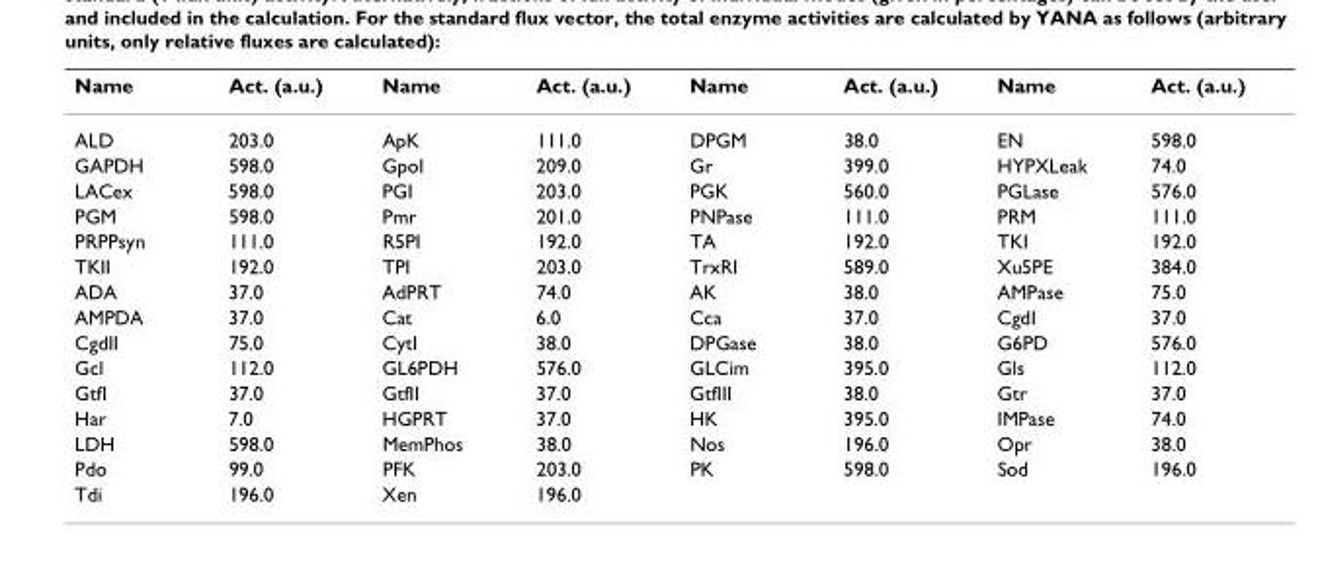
<table><thead><tr><td>Name</td><td>Act. (a.u.)</td><td>Name</td><td>Act. (a.u.)</td><td>Name</td><td>Act. (a.u.)</td><td>Name</td><td>Act. (a.u.)</td></tr></thead><tbody><tr><td>ALD</td><td>203.0</td><td>ApK</td><td>111.0</td><td>DPGM</td><td>38.0</td><td>EN</td><td>598.0</td></tr><tr><td>GAPDH</td><td>598.0</td><td>GpoI</td><td>209.0</td><td>Gr</td><td>399.0</td><td>HYPXLeak</td><td>74.0</td></tr><tr><td>LACex</td><td>598.0</td><td>PGI</td><td>203.0</td><td>PGK</td><td>560.0</td><td>PGLase</td><td>576.0</td></tr><tr><td>PGM</td><td>598.0</td><td>Pmr</td><td>201.0</td><td>PNPase</td><td>111.0</td><td>PRM</td><td>111.0</td></tr><tr><td>PRPPsyn</td><td>111.0</td><td>R5PI</td><td>192.0</td><td>TA</td><td>192.0</td><td>TKI</td><td>192.0</td></tr><tr><td>TKII</td><td>192.0</td><td>TPI</td><td>203.0</td><td>TrxRI</td><td>589.0</td><td>Xu5PE</td><td>384.0</td></tr><tr><td>ADA</td><td>37.0</td><td>AdPRT</td><td>74.0</td><td>AK</td><td>38.0</td><td>AMPase</td><td>75.0</td></tr><tr><td>AMPDA</td><td>37.0</td><td>Cat</td><td>6.0</td><td>Cca</td><td>37.0</td><td>CgdI</td><td>37.0</td></tr><tr><td>CgdII</td><td>75.0</td><td>CytI</td><td>38.0</td><td>DPGase</td><td>38.0</td><td>G6PD</td><td>576.0</td></tr><tr><td>Gcl</td><td>112.0</td><td>GL6PDH</td><td>576.0</td><td>GLCim</td><td>395.0</td><td>Gls</td><td>112.0</td></tr><tr><td>GtfI</td><td>37.0</td><td>GtfII</td><td>37.0</td><td>GtfIII</td><td>38.0</td><td>Gtr</td><td>37.0</td></tr><tr><td>Har</td><td>7.0</td><td>HGPRT</td><td>37.0</td><td>HK</td><td>395.0</td><td>IMPase</td><td>74.0</td></tr><tr><td>LDH</td><td>598.0</td><td>MemPhos</td><td>38.0</td><td>Nos</td><td>196.0</td><td>Opr</td><td>38.0</td></tr><tr><td>Pdo</td><td>99.0</td><td>PFK</td><td>203.0</td><td>PK</td><td>598.0</td><td>Sod</td><td>196.0</td></tr><tr><td>Tdi</td><td>196.0</td><td>Xen</td><td>196.0</td><td></td><td></td><td></td><td></td></tr></tbody></table>